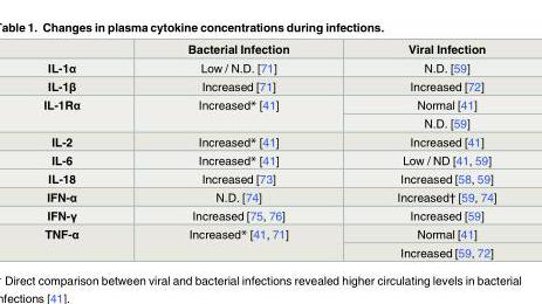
<table><thead><tr><td></td><td>Bacterial Infection</td><td>Viral Infection</td></tr></thead><tbody><tr><td>IL-1α</td><td>Low / N.D. [71]</td><td>N.D. [59]</td></tr><tr><td>IL-1β</td><td>Increased [71]</td><td>Increased [72]</td></tr><tr><td rowspan="2">IL-1Rα</td><td rowspan="2">Increased* [41]</td><td>Normal [41]</td></tr><tr><td>N.D. [59]</td></tr><tr><td>IL-2</td><td>Increased* [41]</td><td>Increased [41]</td></tr><tr><td>IL-6</td><td>Increased* [41]</td><td>Low / ND [41, 59]</td></tr><tr><td>IL-18</td><td>Increased [73]</td><td>Increased [58, 59]</td></tr><tr><td>IFN-α</td><td>N.D. [74]</td><td>Increased† [59, 74]</td></tr><tr><td>IFN-γ</td><td>Increased [75, 76]</td><td>Increased [59]</td></tr><tr><td rowspan="2">TNF-α</td><td rowspan="2">Increased* [41, 71]</td><td>Normal [41]</td></tr><tr><td>Increased [59, 72]</td></tr></tbody></table>